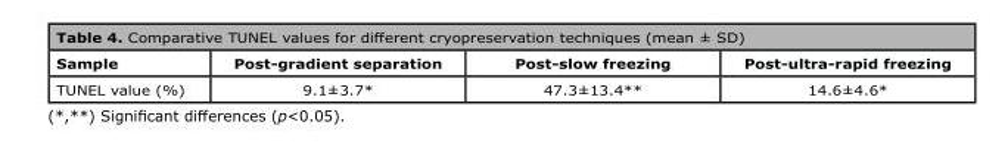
<table><thead><tr><td>Sample</td><td>Post-gradient separation</td><td>Post-slow freezing</td><td>Post-ultra-rapid freezing</td></tr></thead><tbody><tr><td>TUNEL value (%)</td><td>9.1±3.7*</td><td>47.3±13.4**</td><td>14.6±4.6*</td></tr></tbody></table>